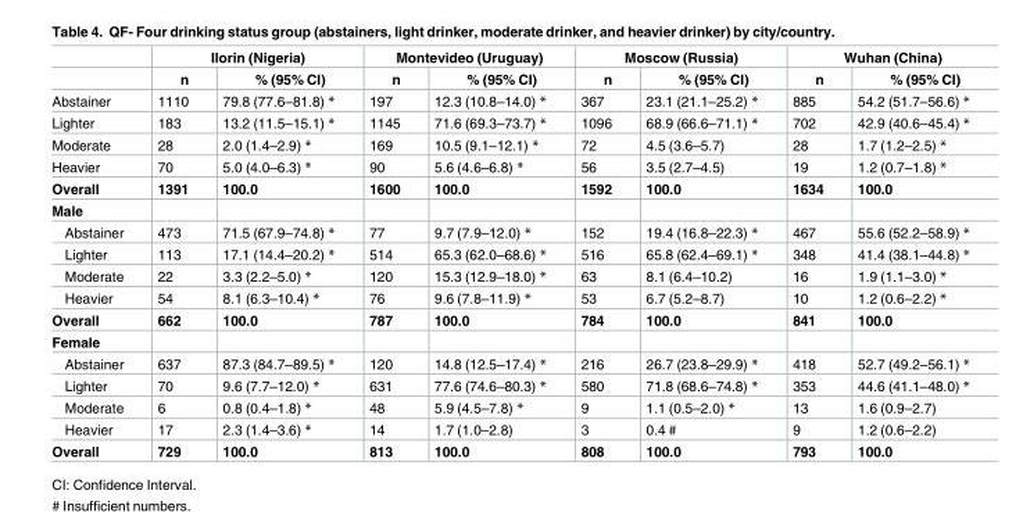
<table><thead><tr><td rowspan="2"></td><td colspan="2">Ilorin (Nigeria)</td><td colspan="2">Montevideo (Uruguay)</td><td colspan="2">Moscow (Russia)</td><td colspan="2">Wuhan (China)</td></tr><tr><td>n</td><td>% (95% CI)</td><td>n</td><td>% (95% CI)</td><td>n</td><td>% (95% CI)</td><td>n</td><td>% (95% CI)</td></tr></thead><tbody><tr><td>Abstainer</td><td>1110</td><td>79.8 (77.6–81.8) *</td><td>197</td><td>12.3 (10.8–14.0) *</td><td>367</td><td>23.1 (21.1–25.2) *</td><td>885</td><td>54.2 (51.7–56.6) *</td></tr><tr><td>Lighter</td><td>183</td><td>13.2 (11.5–15.1) *</td><td>1145</td><td>71.6 (69.3–73.7) *</td><td>1096</td><td>68.9 (66.6–71.1) *</td><td>702</td><td>42.9 (40.6–45.4) *</td></tr><tr><td>Moderate</td><td>28</td><td>2.0 (1.4–2.9) *</td><td>169</td><td>10.5 (9.1–12.1) *</td><td>72</td><td>4.5 (3.6–5.7)</td><td>28</td><td>1.7 (1.2–2.5) *</td></tr><tr><td>Heavier</td><td>70</td><td>5.0 (4.0–6.3) *</td><td>90</td><td>5.6 (4.6–6.8) *</td><td>56</td><td>3.5 (2.7–4.5)</td><td>19</td><td>1.2 (0.7–1.8) *</td></tr><tr><td>Overall</td><td>1391</td><td>100.0</td><td>1600</td><td>100.0</td><td>1592</td><td>100.0</td><td>1634</td><td>100.0</td></tr><tr><td colspan="9">Male</td></tr><tr><td>Abstainer</td><td>473</td><td>71.5 (67.9–74.8) *</td><td>77</td><td>9.7 (7.9–12.0) *</td><td>152</td><td>19.4 (16.8–22.3) *</td><td>467</td><td>55.6 (52.2–58.9) *</td></tr><tr><td>Lighter</td><td>113</td><td>17.1 (14.4–20.2) *</td><td>514</td><td>65.3 (62.0–68.6) *</td><td>516</td><td>65.8 (62.4–69.1) *</td><td>348</td><td>41.4 (38.1–44.8) *</td></tr><tr><td>Moderate</td><td>22</td><td>3.3 (2.2–5.0) *</td><td>120</td><td>15.3 (12.9–18.0) *</td><td>63</td><td>8.1 (6.4–10.2)</td><td>16</td><td>1.9 (1.1–3.0) *</td></tr><tr><td>Heavier</td><td>54</td><td>8.1 (6.3–10.4) *</td><td>76</td><td>9.6 (7.8–11.9) *</td><td>53</td><td>6.7 (5.2–8.7)</td><td>10</td><td>1.2 (0.6–2.2) *</td></tr><tr><td>Overall</td><td>662</td><td>100.0</td><td>787</td><td>100.0</td><td>784</td><td>100.0</td><td>841</td><td>100.0</td></tr><tr><td colspan="9">Female</td></tr><tr><td>Abstainer</td><td>637</td><td>87.3 (84.7–89.5) *</td><td>120</td><td>14.8 (12.5–17.4) *</td><td>216</td><td>26.7 (23.8–29.9) *</td><td>418</td><td>52.7 (49.2–56.1) *</td></tr><tr><td>Lighter</td><td>70</td><td>9.6 (7.7–12.0) *</td><td>631</td><td>77.6 (74.6–80.3) *</td><td>580</td><td>71.8 (68.6–74.8) *</td><td>353</td><td>44.6 (41.1–48.0) *</td></tr><tr><td>Moderate</td><td>6</td><td>0.8 (0.4–1.8) *</td><td>48</td><td>5.9 (4.5–7.8) *</td><td>9</td><td>1.1 (0.5–2.0) *</td><td>13</td><td>1.6 (0.9–2.7)</td></tr><tr><td>Heavier</td><td>17</td><td>2.3 (1.4–3.6) *</td><td>14</td><td>1.7 (1.0–2.8)</td><td>3</td><td>0.4 #</td><td>9</td><td>1.2 (0.6–2.2)</td></tr><tr><td>Overall</td><td>729</td><td>100.0</td><td>813</td><td>100.0</td><td>808</td><td>100.0</td><td>793</td><td>100.0</td></tr></tbody></table>